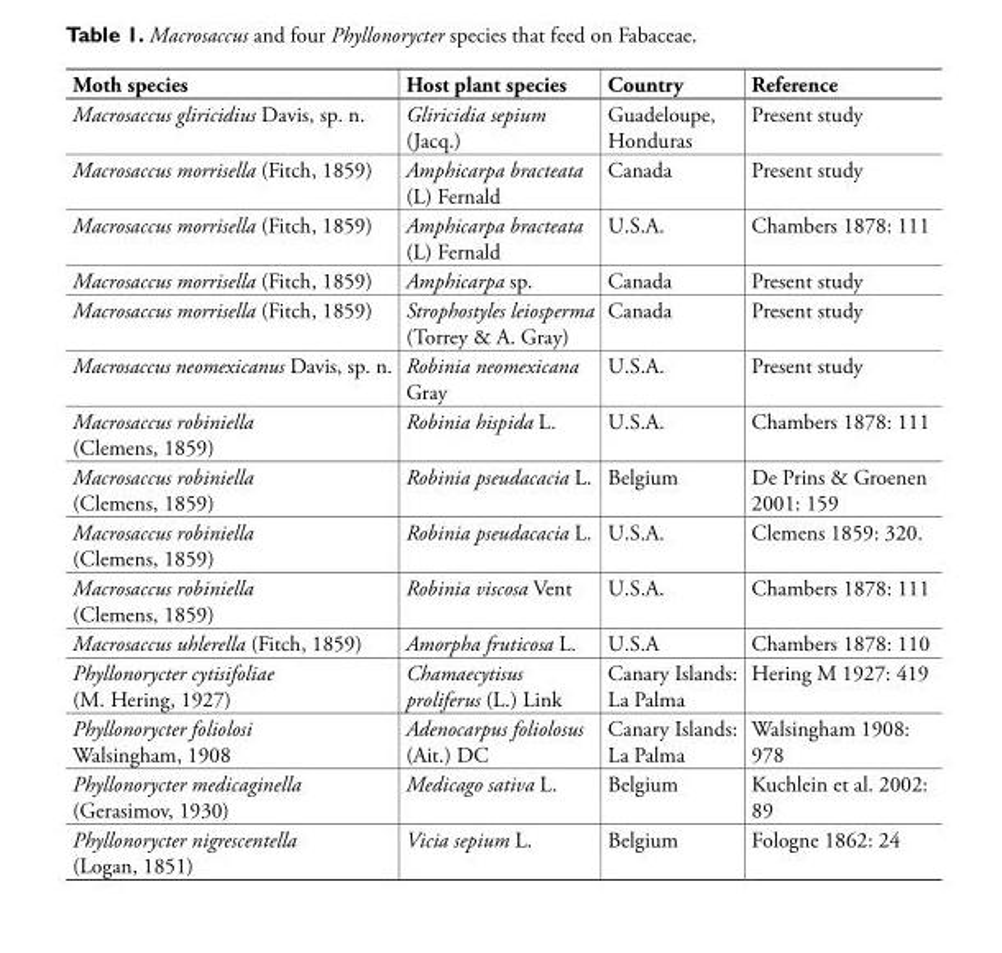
<table><thead><tr><td>Moth species</td><td>Host plant species</td><td>Country</td><td>Reference</td></tr></thead><tbody><tr><td>Macrosaccus gliricidius Davis, sp. n.</td><td>Gliricidia sepium (Jacq.)</td><td>Guadeloupe, Honduras</td><td>Present study</td></tr><tr><td>Macrosaccus morrisella (Fitch, 1859)</td><td>Amphicarpa bracteata (L) Fernald</td><td>Canada</td><td>Present study</td></tr><tr><td>Macrosaccus morrisella (Fitch, 1859)</td><td>Amphicarpa bracteata (L) Fernald</td><td>U.S.A.</td><td>Chambers 1878: 111</td></tr><tr><td>Macrosaccus morrisella (Fitch, 1859)</td><td>Amphicarpa sp.</td><td>Canada</td><td>Present study</td></tr><tr><td>Macrosaccus morrisella (Fitch, 1859)</td><td>Strophostyles leiosperma (Torrey &amp; A. Gray)</td><td>Canada</td><td>Present study</td></tr><tr><td>Macrosaccus neomexicanus Davis, sp. n.</td><td>Robinia neomexicana Gray</td><td>U.S.A.</td><td>Present study</td></tr><tr><td>Macrosaccus robiniella (Clemens, 1859)</td><td>Robinia hispida L.</td><td>U.S.A.</td><td>Chambers 1878: 111</td></tr><tr><td>Macrosaccus robiniella (Clemens, 1859)</td><td>Robinia pseudacacia L.</td><td>Belgium</td><td>De Prins &amp; Groenen 2001: 159</td></tr><tr><td>Macrosaccus robiniella (Clemens, 1859)</td><td>Robinia pseudacacia L.</td><td>U.S.A.</td><td>Clemens 1859: 320.</td></tr><tr><td>Macrosaccus robiniella (Clemens, 1859)</td><td>Robinia viscosa Vent</td><td>U.S.A.</td><td>Chambers 1878: 111</td></tr><tr><td>Macrosaccus uhlerella (Fitch, 1859)</td><td>Amorpha fruticosa L.</td><td>U.S.A</td><td>Chambers 1878: 110</td></tr><tr><td>Phyllonorycter cytisifoliae (M. Hering, 1927)</td><td>Chamaecytisus proliferus (L.) Link</td><td>Canary Islands: La Palma</td><td>Hering M 1927: 419</td></tr><tr><td>Phyllonorycter foliolosi Walsingham, 1908</td><td>Adenocarpus foliolosus (Ait.) DC</td><td>Canary Islands: La Palma</td><td>Walsingham 1908: 978</td></tr><tr><td>Phyllonorycter medicaginella (Gerasimov, 1930)</td><td>Medicago sativa L.</td><td>Belgium</td><td>Kuchlein et al. 2002: 89</td></tr><tr><td>Phyllonorycter nigrescentella (Logan, 1851)</td><td>Vicia sepium L.</td><td>Belgium</td><td>Fologne 1862: 24</td></tr></tbody></table>